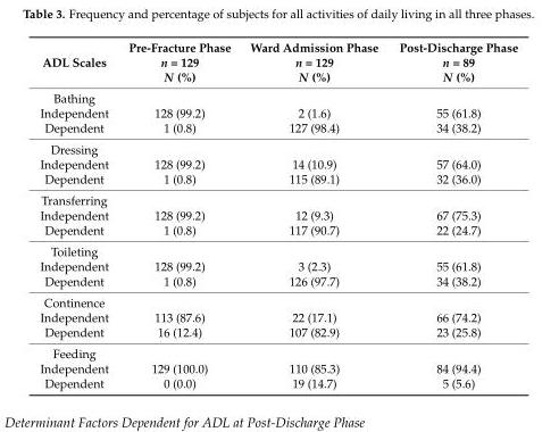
<table><thead><tr><td>ADL Scales</td><td>Pre-Fracture Phase n = 129 N (%)</td><td>Ward Admission Phase n = 129 N (%)</td><td>Post-Discharge Phase n = 89 N (%)</td></tr></thead><tbody><tr><td colspan="4">Bathing</td></tr><tr><td>Independent</td><td>128 (99.2)</td><td>2 (1.6)</td><td>55 (61.8)</td></tr><tr><td>Dependent</td><td>1 (0.8)</td><td>127 (98.4)</td><td>34 (38.2)</td></tr><tr><td colspan="4">Dressing</td></tr><tr><td>Independent</td><td>128 (99.2)</td><td>14 (10.9)</td><td>57 (64.0)</td></tr><tr><td>Dependent</td><td>1 (0.8)</td><td>115 (89.1)</td><td>32 (36.0)</td></tr><tr><td colspan="4">Transferring</td></tr><tr><td>Independent</td><td>128 (99.2)</td><td>12 (9.3)</td><td>67 (75.3)</td></tr><tr><td>Dependent</td><td>1 (0.8)</td><td>117 (90.7)</td><td>22 (24.7)</td></tr><tr><td colspan="4">Toileting</td></tr><tr><td>Independent</td><td>128 (99.2)</td><td>3 (2.3)</td><td>55 (61.8)</td></tr><tr><td>Dependent</td><td>1 (0.8)</td><td>126 (97.7)</td><td>34 (38.2)</td></tr><tr><td colspan="4">Continence</td></tr><tr><td>Independent</td><td>113 (87.6)</td><td>22 (17.1)</td><td>66 (74.2)</td></tr><tr><td>Dependent</td><td>16 (12.4)</td><td>107 (82.9)</td><td>23 (25.8)</td></tr><tr><td colspan="4">Feeding</td></tr><tr><td>Independent</td><td>129 (100.0)</td><td>110 (85.3)</td><td>84 (94.4)</td></tr><tr><td>Dependent</td><td>0 (0.0)</td><td>19 (14.7)</td><td>5 (5.6)</td></tr></tbody></table>